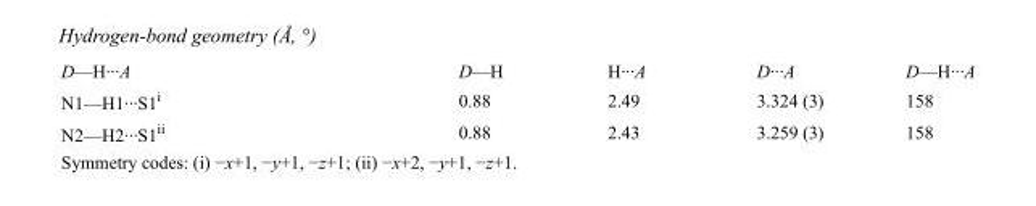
<table><tbody><tr><td>D—H···A</td><td>D—H</td><td>H···A</td><td>D···A</td><td>D—H···A</td></tr><tr><td>N1—H1···S1<sup>i</sup></td><td>0.88</td><td>2.49</td><td>3.324 (3)</td><td>158</td></tr><tr><td>N2—H2···S1<sup>ii</sup></td><td>0.88</td><td>2.43</td><td>3.259 (3)</td><td>158</td></tr></tbody></table>